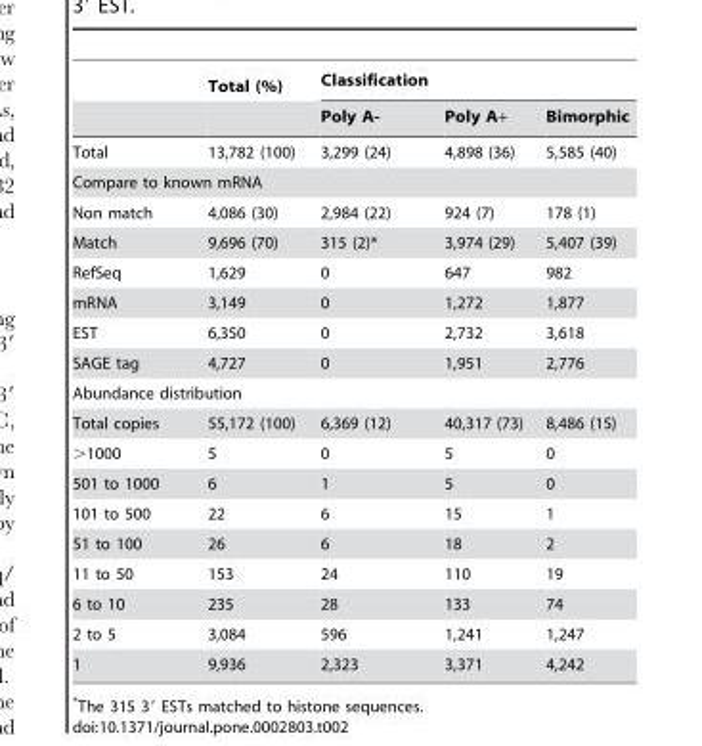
<table><thead><tr><td rowspan="2"></td><td rowspan="2">Total (%)</td><td colspan="3">Classification</td></tr><tr><td>Poly A-</td><td>Poly A+</td><td>Bimorphic</td></tr></thead><tbody><tr><td>Total</td><td>13,782 (100)</td><td>3,299 (24)</td><td>4,898 (36)</td><td>5,585 (40)</td></tr><tr><td colspan="5">Compare to known mRNA</td></tr><tr><td>Non match</td><td>4,086 (30)</td><td>2,984 (22)</td><td>924 (7)</td><td>178 (1)</td></tr><tr><td>Match</td><td>9,696 (70)</td><td>315 (2)*</td><td>3,974 (29)</td><td>5,407 (39)</td></tr><tr><td>RefSeq</td><td>1,629</td><td>0</td><td>647</td><td>982</td></tr><tr><td>mRNA</td><td>3,149</td><td>0</td><td>1,272</td><td>1,877</td></tr><tr><td>EST</td><td>6,350</td><td>0</td><td>2,732</td><td>3,618</td></tr><tr><td>SAGE tag</td><td>4,727</td><td>0</td><td>1,951</td><td>2,776</td></tr><tr><td colspan="5">Abundance distribution</td></tr><tr><td>Total copies</td><td>55,172 (100)</td><td>6,369 (12)</td><td>40,317 (73)</td><td>8,486 (15)</td></tr><tr><td>&gt;1000</td><td>5</td><td>0</td><td>5</td><td>0</td></tr><tr><td>501 to 1000</td><td>6</td><td>1</td><td>5</td><td>0</td></tr><tr><td>101 to 500</td><td>22</td><td>6</td><td>15</td><td>1</td></tr><tr><td>51 to 100</td><td>26</td><td>6</td><td>18</td><td>2</td></tr><tr><td>11 to 50</td><td>153</td><td>24</td><td>110</td><td>19</td></tr><tr><td>6 to 10</td><td>235</td><td>28</td><td>133</td><td>74</td></tr><tr><td>2 to 5</td><td>3,084</td><td>596</td><td>1,241</td><td>1,247</td></tr><tr><td>1</td><td>9,936</td><td>2,323</td><td>3,371</td><td>4,242</td></tr></tbody></table>